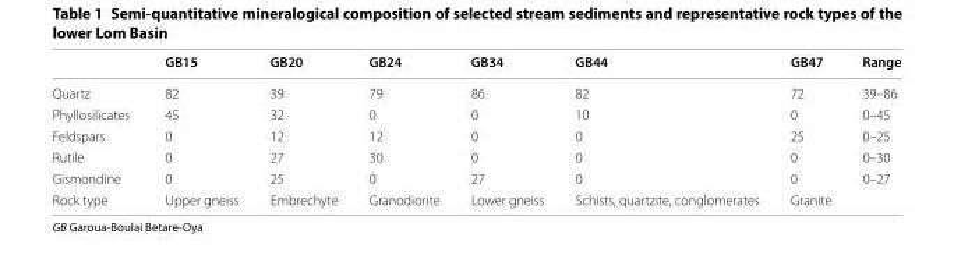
<table><thead><tr><td></td><td>GB15</td><td>GB20</td><td>GB24</td><td>GB34</td><td>GB44</td><td>GB47</td><td>Range</td></tr></thead><tbody><tr><td>Quartz</td><td>82</td><td>39</td><td>79</td><td>86</td><td>82</td><td>72</td><td>39–86</td></tr><tr><td>Phyllosilicates</td><td>45</td><td>32</td><td>0</td><td>0</td><td>10</td><td>0</td><td>0–45</td></tr><tr><td>Feldspars</td><td>0</td><td>12</td><td>12</td><td>0</td><td>0</td><td>25</td><td>0–25</td></tr><tr><td>Rutile</td><td>0</td><td>27</td><td>30</td><td>0</td><td>0</td><td>0</td><td>0–30</td></tr><tr><td>Gismondine</td><td>0</td><td>25</td><td>0</td><td>27</td><td>0</td><td>0</td><td>0–27</td></tr><tr><td>Rock type</td><td>Upper gneiss</td><td>Embrechyte</td><td>Granodiorite</td><td>Lower gneiss</td><td>Schists, quartzite, conglomerates</td><td>Granite</td><td></td></tr></tbody></table>